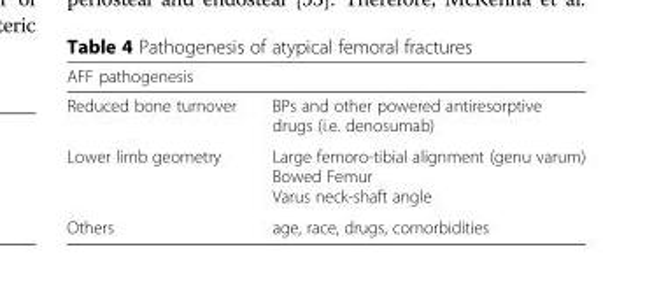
<table><thead><tr><td colspan="2">AFF pathogenesis</td></tr><tr><td>Reduced bone turnover</td><td>BPs and other powered antiresorptive drugs (i.e. denosumab)</td></tr></thead><tbody><tr><td>Lower limb geometry</td><td>Large femoro-tibial alignment (genu varum) Bowed Femur Varus neck-shaft angle</td></tr><tr><td>Others</td><td>age, race, drugs, comorbidities</td></tr></tbody></table>